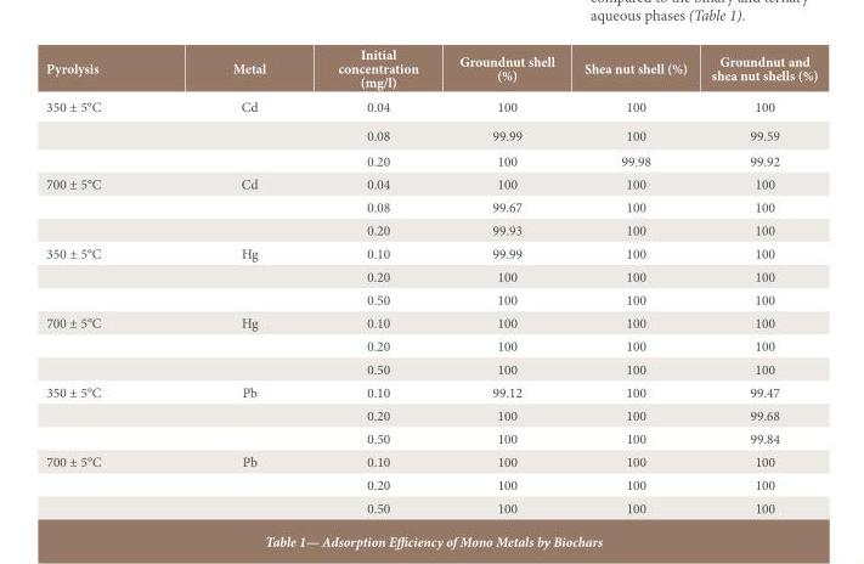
<table><thead><tr><td>Pyrolysis</td><td>Metal</td><td>Initial concentration (mg/l)</td><td>Groundnut shell (%)</td><td>Shea nut shell (%)</td><td>Groundnut and shea nut shells (%)</td></tr></thead><tbody><tr><td rowspan="3">350 ± 5°C</td><td>Cd</td><td>0.04</td><td>100</td><td>100</td><td>100</td></tr><tr><td></td><td>0.08</td><td>99.99</td><td>100</td><td>99.59</td></tr><tr><td></td><td>0.20</td><td>100</td><td>99.98</td><td>99.92</td></tr><tr><td rowspan="3">700 ± 5°C</td><td>Cd</td><td>0.04</td><td>100</td><td>100</td><td>100</td></tr><tr><td></td><td>0.08</td><td>99.67</td><td>100</td><td>100</td></tr><tr><td></td><td>0.20</td><td>99.93</td><td>100</td><td>100</td></tr><tr><td rowspan="3">350 ± 5°C</td><td>Hg</td><td>0.10</td><td>99.99</td><td>100</td><td>100</td></tr><tr><td></td><td>0.20</td><td>100</td><td>100</td><td>100</td></tr><tr><td></td><td>0.50</td><td>100</td><td>100</td><td>100</td></tr><tr><td rowspan="3">700 ± 5°C</td><td>Hg</td><td>0.10</td><td>100</td><td>100</td><td>100</td></tr><tr><td></td><td>0.20</td><td>100</td><td>100</td><td>100</td></tr><tr><td></td><td>0.50</td><td>100</td><td>100</td><td>100</td></tr><tr><td rowspan="3">350 ± 5°C</td><td>Pb</td><td>0.10</td><td>99.12</td><td>100</td><td>99.47</td></tr><tr><td></td><td>0.20</td><td>100</td><td>100</td><td>99.68</td></tr><tr><td></td><td>0.50</td><td>100</td><td>100</td><td>99.84</td></tr><tr><td rowspan="3">700 ± 5°C</td><td>Pb</td><td>0.10</td><td>100</td><td>100</td><td>100</td></tr><tr><td></td><td>0.20</td><td>100</td><td>100</td><td>100</td></tr><tr><td></td><td>0.50</td><td>100</td><td>100</td><td>100</td></tr></tbody></table>